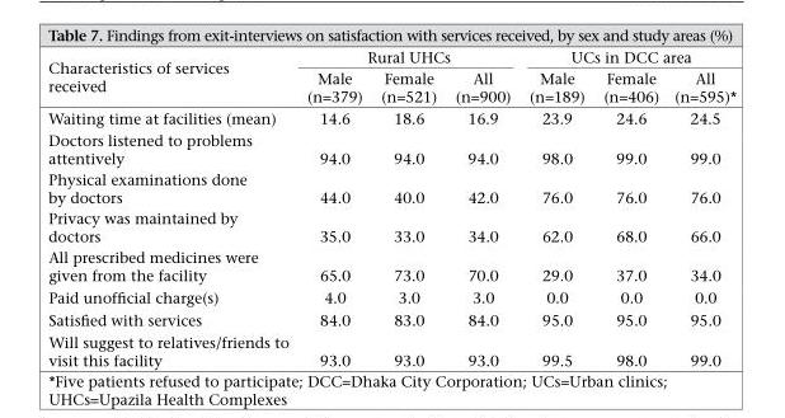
<table><thead><tr><td rowspan="2">Characteristics of services received</td><td colspan="3">Rural UHCs</td><td colspan="3">UCs in DCC area</td></tr><tr><td>Male (n=379)</td><td>Female (n=521)</td><td>All (n=900)</td><td>Male (n=189)</td><td>Female (n=406)</td><td>All (n=595)*</td></tr></thead><tbody><tr><td>Waiting time at facilities (mean)</td><td>14.6</td><td>18.6</td><td>16.9</td><td>23.9</td><td>24.6</td><td>24.5</td></tr><tr><td>Doctors listened to problems attentively</td><td>94.0</td><td>94.0</td><td>94.0</td><td>98.0</td><td>99.0</td><td>99.0</td></tr><tr><td>Physical examinations done by doctors</td><td>44.0</td><td>40.0</td><td>42.0</td><td>76.0</td><td>76.0</td><td>76.0</td></tr><tr><td>Privacy was maintained by doctors</td><td>35.0</td><td>33.0</td><td>34.0</td><td>62.0</td><td>68.0</td><td>66.0</td></tr><tr><td>All prescribed medicines were given from the facility</td><td>65.0</td><td>73.0</td><td>70.0</td><td>29.0</td><td>37.0</td><td>34.0</td></tr><tr><td>Paid unofficial charge(s)</td><td>4.0</td><td>3.0</td><td>3.0</td><td>0.0</td><td>0.0</td><td>0.0</td></tr><tr><td>Satisfied with services</td><td>84.0</td><td>83.0</td><td>84.0</td><td>95.0</td><td>95.0</td><td>95.0</td></tr><tr><td>Will suggest to relatives/friends to visit this facility</td><td>93.0</td><td>93.0</td><td>93.0</td><td>99.5</td><td>98.0</td><td>99.0</td></tr></tbody></table>